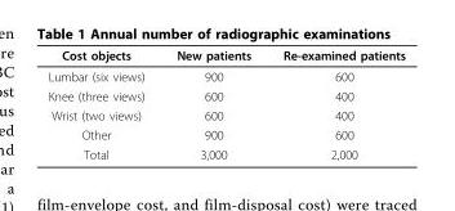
<table><thead><tr><td>Cost objects</td><td>New patients</td><td>Re-examined patients</td></tr></thead><tbody><tr><td>Lumbar (six views)</td><td>900</td><td>600</td></tr><tr><td>Knee (three views)</td><td>600</td><td>400</td></tr><tr><td>Wrist (two views)</td><td>600</td><td>400</td></tr><tr><td>Other</td><td>900</td><td>600</td></tr><tr><td>Total</td><td>3,000</td><td>2,000</td></tr></tbody></table>